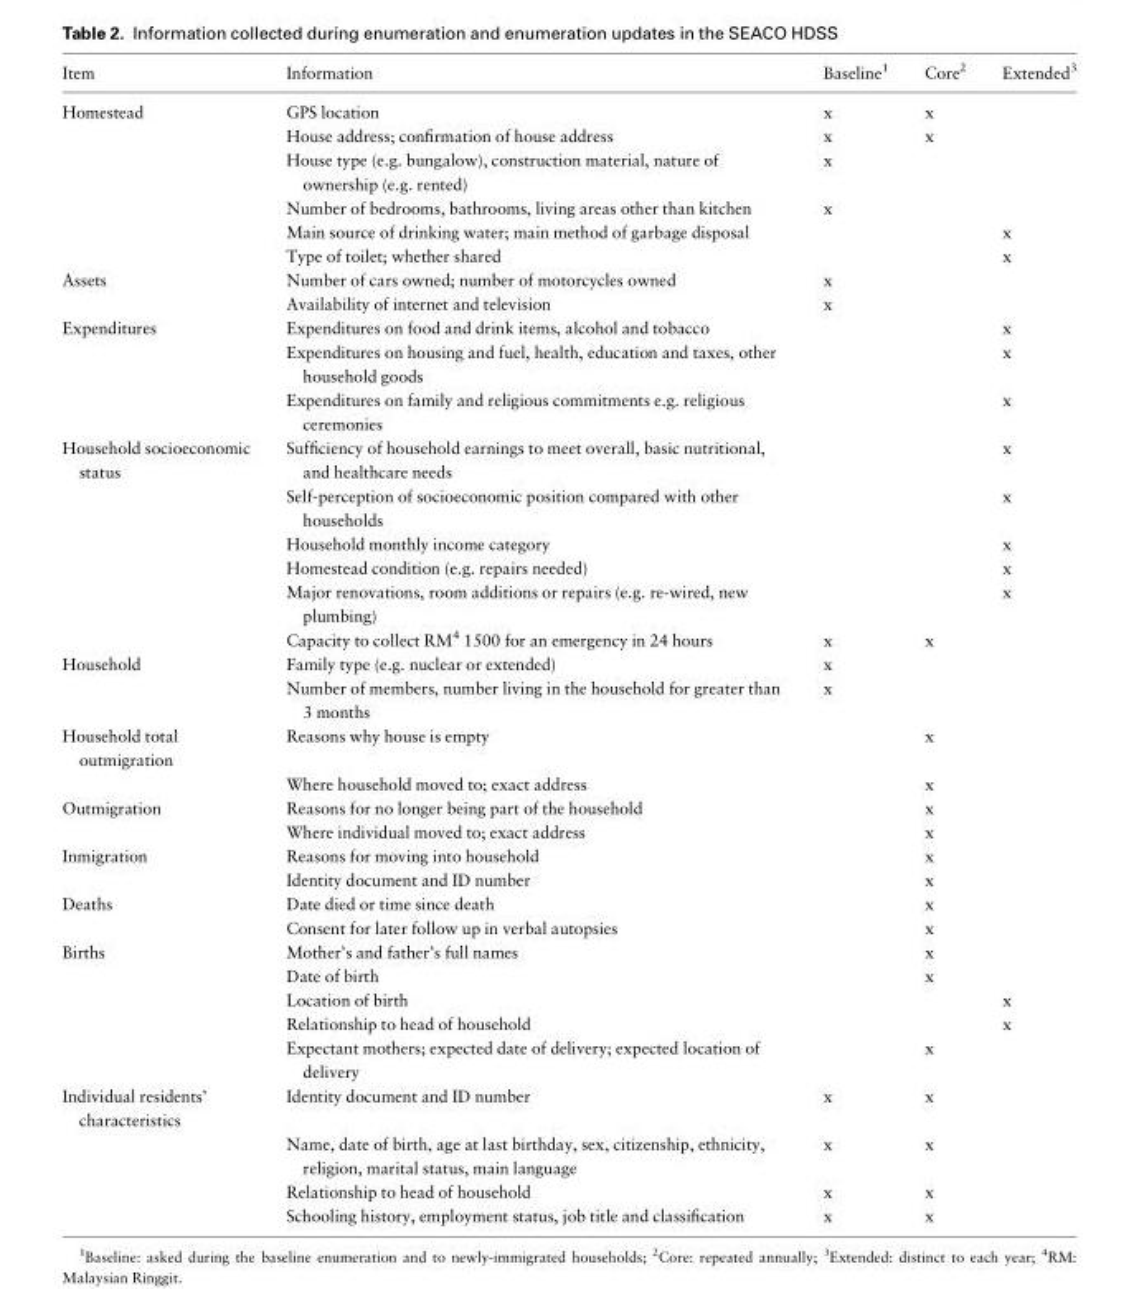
<table><thead><tr><td>Item</td><td>Information</td><td>Baseline<sup>1</sup></td><td>Core<sup>2</sup></td><td>Extended<sup>3</sup></td></tr></thead><tbody><tr><td rowspan="6">Homestead</td><td>GPS location</td><td>x</td><td>x</td><td></td></tr><tr><td>House address; confirmation of house address</td><td>x</td><td>x</td><td></td></tr><tr><td>House type (e.g. bungalow), construction material, nature of ownership (e.g. rented)</td><td>x</td><td></td><td></td></tr><tr><td>Number of bedrooms, bathrooms, living areas other than kitchen</td><td>x</td><td></td><td></td></tr><tr><td>Main source of drinking water; main method of garbage disposal</td><td></td><td></td><td>x</td></tr><tr><td>Type of toilet; whether shared</td><td></td><td></td><td>x</td></tr><tr><td rowspan="2">Assets</td><td>Number of cars owned; number of motorcycles owned</td><td>x</td><td></td><td></td></tr><tr><td>Availability of internet and television</td><td>x</td><td></td><td></td></tr><tr><td rowspan="3">Expenditures</td><td>Expenditures on food and drink items, alcohol and tobacco</td><td></td><td></td><td>x</td></tr><tr><td>Expenditures on housing and fuel, health, education and taxes, other household goods</td><td></td><td></td><td>x</td></tr><tr><td>Expenditures on family and religious commitments e.g. religious ceremonies</td><td></td><td></td><td>x</td></tr><tr><td rowspan="6">Household socioeconomic status</td><td>Sufficiency of household earnings to meet overall, basic nutritional, and healthcare needs</td><td></td><td></td><td>x</td></tr><tr><td>Self-perception of socioeconomic position compared with other households</td><td></td><td></td><td>x</td></tr><tr><td>Household monthly income category</td><td></td><td></td><td>x</td></tr><tr><td>Homestead condition (e.g. repairs needed)</td><td></td><td></td><td>x</td></tr><tr><td>Major renovations, room additions or repairs (e.g. re-wired, new plumbing)</td><td></td><td></td><td>x</td></tr><tr><td>Capacity to collect RM<sup>4</sup> 1500 for an emergency in 24 hours</td><td>x</td><td>x</td><td></td></tr><tr><td rowspan="2">Household</td><td>Family type (e.g. nuclear or extended)</td><td>x</td><td></td><td></td></tr><tr><td>Number of members, number living in the household for greater than 3 months</td><td>x</td><td></td><td></td></tr><tr><td rowspan="2">Household total outmigration</td><td>Reasons why house is empty</td><td></td><td>x</td><td></td></tr><tr><td>Where household moved to; exact address</td><td></td><td>x</td><td></td></tr><tr><td rowspan="2">Outmigration</td><td>Reasons for no longer being part of the household</td><td></td><td>x</td><td></td></tr><tr><td>Where individual moved to; exact address</td><td></td><td>x</td><td></td></tr><tr><td rowspan="2">Inmigration</td><td>Reasons for moving into household</td><td></td><td>x</td><td></td></tr><tr><td>Identity document and ID number</td><td></td><td>x</td><td></td></tr><tr><td rowspan="2">Deaths</td><td>Date died or time since death</td><td></td><td>x</td><td></td></tr><tr><td>Consent for later follow up in verbal autopsies</td><td></td><td>x</td><td></td></tr><tr><td rowspan="5">Births</td><td>Mother’s and father’s full names</td><td></td><td>x</td><td></td></tr><tr><td>Date of birth</td><td></td><td>x</td><td></td></tr><tr><td>Location of birth</td><td></td><td></td><td>x</td></tr><tr><td>Relationship to head of household</td><td></td><td></td><td>x</td></tr><tr><td>Expectant mothers; expected date of delivery; expected location of delivery</td><td></td><td>x</td><td></td></tr><tr><td rowspan="4">Individual residents’ characteristics</td><td>Identity document and ID number</td><td>x</td><td>x</td><td></td></tr><tr><td>Name, date of birth, age at last birthday, sex, citizenship, ethnicity, religion, marital status, main language</td><td>x</td><td>x</td><td></td></tr><tr><td>Relationship to head of household</td><td>x</td><td>x</td><td></td></tr><tr><td>Schooling history, employment status, job title and classification</td><td>x</td><td>x</td><td></td></tr></tbody></table>